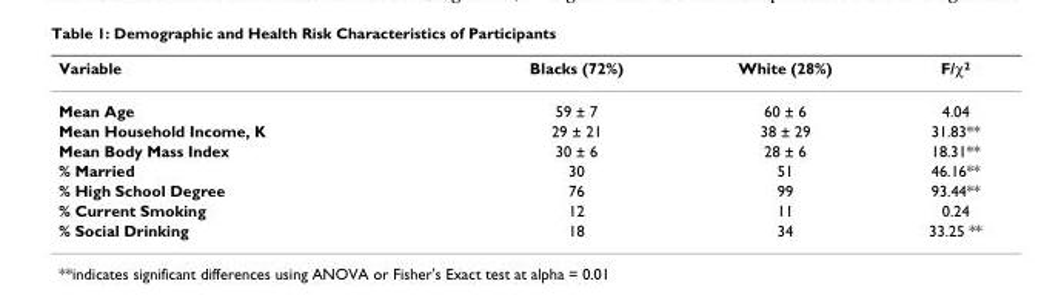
<table><thead><tr><td>Variable</td><td>Blacks (72%)</td><td>White (28%)</td><td>F/χ<sup>2</sup></td></tr></thead><tbody><tr><td>Mean Age</td><td>59 ± 7</td><td>60 ± 6</td><td>4.04</td></tr><tr><td>Mean Household Income, K</td><td>29 ± 21</td><td>38 ± 29</td><td>31.83**</td></tr><tr><td>Mean Body Mass Index</td><td>30 ± 6</td><td>28 ± 6</td><td>18.31**</td></tr><tr><td>% Married</td><td>30</td><td>51</td><td>46.16**</td></tr><tr><td>% High School Degree</td><td>76</td><td>99</td><td>93.44**</td></tr><tr><td>% Current Smoking</td><td>12</td><td>11</td><td>0.24</td></tr><tr><td>% Social Drinking</td><td>18</td><td>34</td><td>33.25 **</td></tr></tbody></table>